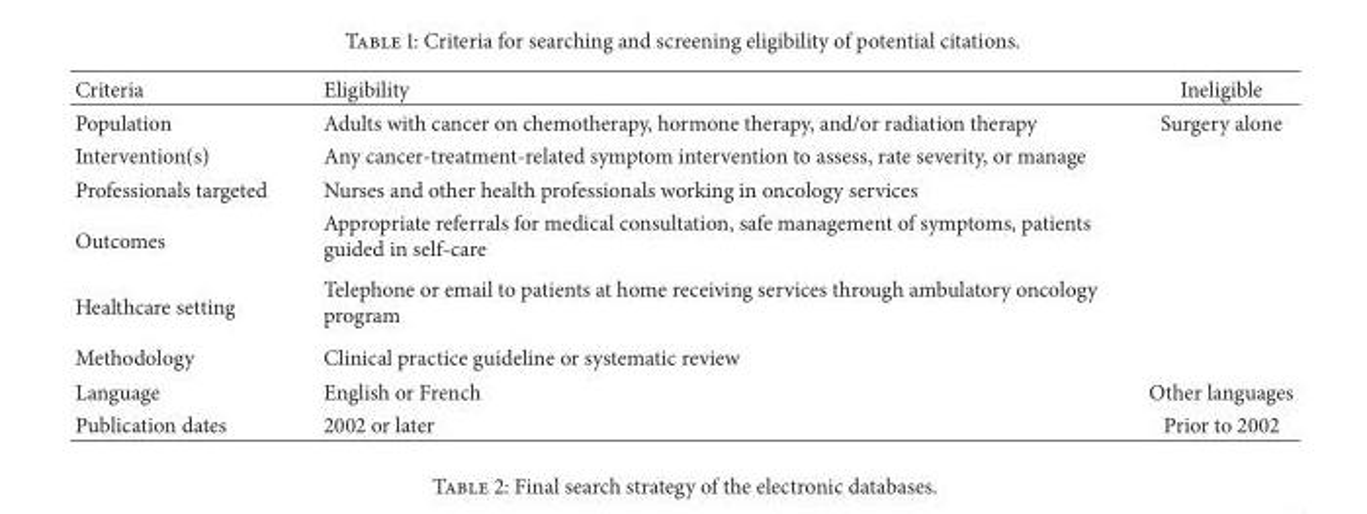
<table><thead><tr><td>Criteria</td><td>Eligibility</td><td>Ineligible</td></tr></thead><tbody><tr><td>Population</td><td>Adults with cancer on chemotherapy, hormone therapy, and/or radiation therapy</td><td>Surgery alone</td></tr><tr><td>Intervention(s)</td><td>Any cancer-treatment-related symptom intervention to assess, rate severity, or manage</td><td></td></tr><tr><td>Professionals targeted</td><td>Nurses and other health professionals working in oncology services</td><td></td></tr><tr><td>Outcomes</td><td>Appropriate referrals for medical consultation, safe management of symptoms, patients guided in self-care</td><td></td></tr><tr><td>Healthcare setting</td><td>Telephone or email to patients at home receiving services through ambulatory oncology program</td><td></td></tr><tr><td>Methodology</td><td>Clinical practice guideline or systematic review</td><td></td></tr><tr><td>Language</td><td>English or French</td><td>Other languages</td></tr><tr><td>Publication dates</td><td>2002 or later</td><td>Prior to 2002</td></tr></tbody></table>